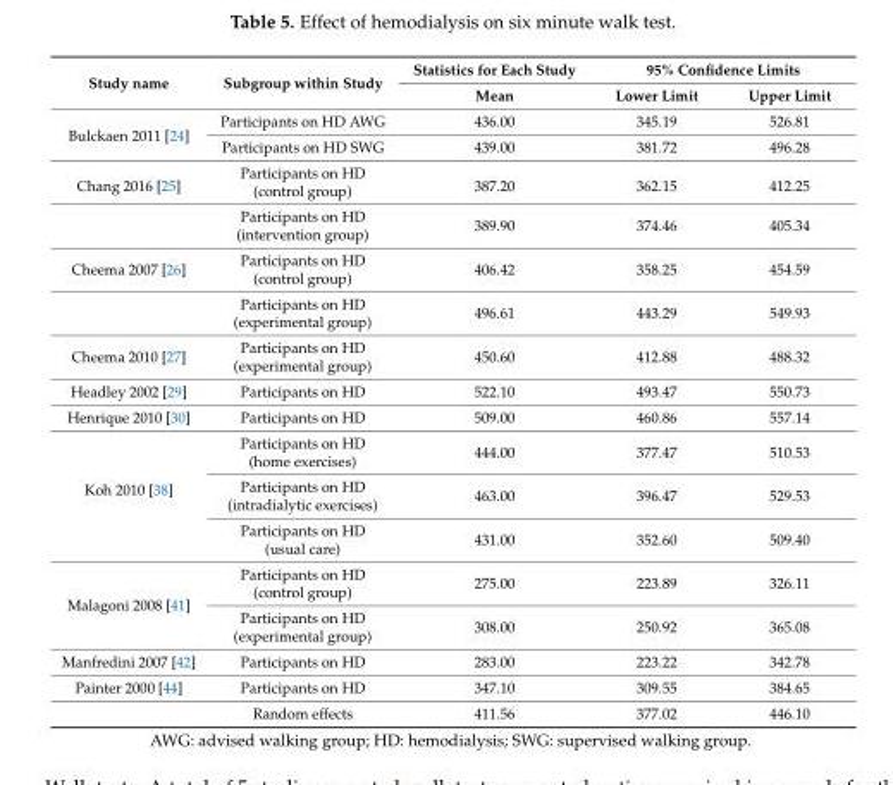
<table><thead><tr><td rowspan="2">Study name</td><td rowspan="2">Subgroup within Study</td><td rowspan="2">Statistics for Each Study Mean</td><td colspan="2">95% Confidence Limits</td></tr><tr><td>Lower Limit</td><td>Upper Limit</td></tr></thead><tbody><tr><td rowspan="2">Bulckaen 2011 [24]</td><td>Participants on HD AWG</td><td>436.00</td><td>345.19</td><td>526.81</td></tr><tr><td>Participants on HD SWG</td><td>439.00</td><td>381.72</td><td>496.28</td></tr><tr><td rowspan="2">Chang 2016 [25]</td><td>Participants on HD (control group)</td><td>387.20</td><td>362.15</td><td>412.25</td></tr><tr><td>Participants on HD (intervention group)</td><td>389.90</td><td>374.46</td><td>405.34</td></tr><tr><td rowspan="2">Cheema 2007 [26]</td><td>Participants on HD (control group)</td><td>406.42</td><td>358.25</td><td>454.59</td></tr><tr><td>Participants on HD (experimental group)</td><td>496.61</td><td>443.29</td><td>549.93</td></tr><tr><td>Cheema 2010 [27]</td><td>Participants on HD (experimental group)</td><td>450.60</td><td>412.88</td><td>488.32</td></tr><tr><td>Headley 2002 [29]</td><td>Participants on HD</td><td>522.10</td><td>493.47</td><td>550.73</td></tr><tr><td>Henrique 2010 [30]</td><td>Participants on HD</td><td>509.00</td><td>460.86</td><td>557.14</td></tr><tr><td rowspan="3">Koh 2010 [38]</td><td>Participants on HD (home exercises)</td><td>444.00</td><td>377.47</td><td>510.53</td></tr><tr><td>Participants on HD (intradialytic exercises)</td><td>463.00</td><td>396.47</td><td>529.53</td></tr><tr><td>Participants on HD (usual care)</td><td>431.00</td><td>352.60</td><td>509.40</td></tr><tr><td rowspan="2">Malagoni 2008 [41]</td><td>Participants on HD (control group)</td><td>275.00</td><td>223.89</td><td>326.11</td></tr><tr><td>Participants on HD (experimental group)</td><td>308.00</td><td>250.92</td><td>365.08</td></tr><tr><td>Manfredini 2007 [42]</td><td>Participants on HD</td><td>283.00</td><td>223.22</td><td>342.78</td></tr><tr><td rowspan="2">Painter 2000 [44]</td><td>Participants on HD</td><td>347.10</td><td>309.55</td><td>384.65</td></tr><tr><td>Random effects</td><td>411.56</td><td>377.02</td><td>446.10</td></tr></tbody></table>